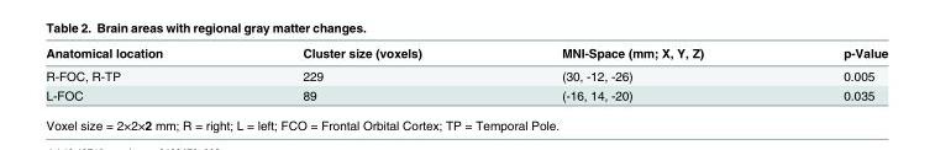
<table><thead><tr><td>Anatomical location</td><td>Cluster size (voxels)</td><td>MNI-Space (mm; X, Y, Z)</td><td>p-Value</td></tr></thead><tbody><tr><td>R-FOC, R-TP</td><td>229</td><td>(30, -12, -26)</td><td>0.005</td></tr><tr><td>L-FOC</td><td>89</td><td>(-16, 14, -20)</td><td>0.035</td></tr></tbody></table>